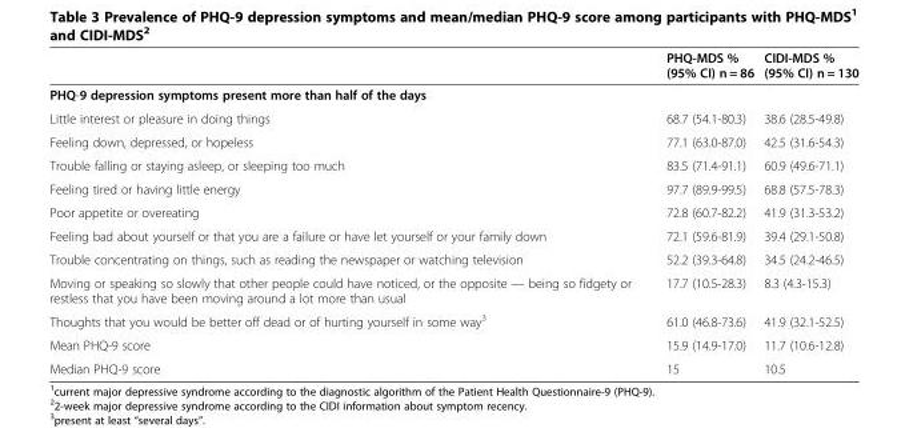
<table><thead><tr><td></td><td>PHQ-MDS % (95% CI) n = 86</td><td>CIDI-MDS % (95% CI) n = 130</td></tr></thead><tbody><tr><td colspan="3">PHQ-9 depression symptoms present more than half of the days</td></tr><tr><td>Little interest or pleasure in doing things</td><td>68.7 (54.1-80.3)</td><td>38.6 (28.5-49.8)</td></tr><tr><td>Feeling down, depressed, or hopeless</td><td>77.1 (63.0-87.0)</td><td>42.5 (31.6-54.3)</td></tr><tr><td>Trouble falling or staying asleep, or sleeping too much</td><td>83.5 (71.4-91.1)</td><td>60.9 (49.6-71.1)</td></tr><tr><td>Feeling tired or having little energy</td><td>97.7 (89.9-99.5)</td><td>68.8 (57.5-78.3)</td></tr><tr><td>Poor appetite or overeating</td><td>72.8 (60.7-82.2)</td><td>41.9 (31.3-53.2)</td></tr><tr><td>Feeling bad about yourself or that you are a failure or have let yourself or your family down</td><td>72.1 (59.6-81.9)</td><td>39.4 (29.1-50.8)</td></tr><tr><td>Trouble concentrating on things, such as reading the newspaper or watching television</td><td>52.2 (39.3-64.8)</td><td>34.5 (24.2-46.5)</td></tr><tr><td>Moving or speaking so slowly that other people could have noticed, or the opposite — being so fidgety or restless that you have been moving around a lot more than usual</td><td>17.7 (10.5-28.3)</td><td>8.3 (4.3-15.3)</td></tr><tr><td>Thoughts that you would be better off dead or of hurting yourself in some way<sup>3</sup></td><td>61.0 (46.8-73.6)</td><td>41.9 (32.1-52.5)</td></tr><tr><td>Mean PHQ-9 score</td><td>15.9 (14.9-17.0)</td><td>11.7 (10.6-12.8)</td></tr><tr><td>Median PHQ-9 score</td><td>15</td><td>10.5</td></tr></tbody></table>